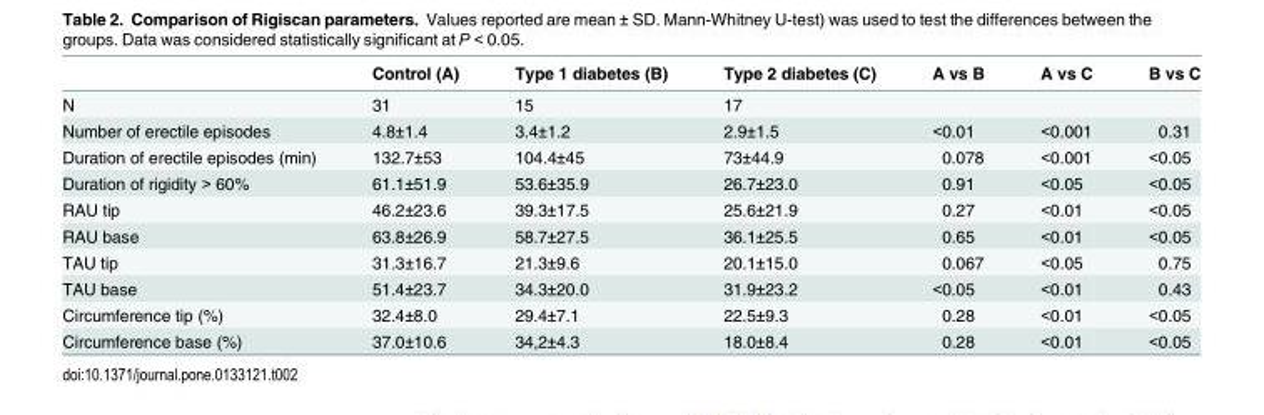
<table><thead><tr><td></td><td>Control (A)</td><td>Type 1 diabetes (B)</td><td>Type 2 diabetes (C)</td><td>A vs B</td><td>A vs C</td><td>B vs C</td></tr></thead><tbody><tr><td>N</td><td>31</td><td>15</td><td>17</td><td></td><td></td><td></td></tr><tr><td>Number of erectile episodes</td><td>4.8±1.4</td><td>3.4±1.2</td><td>2.9±1.5</td><td>&lt;0.01</td><td>&lt;0.001</td><td>0.31</td></tr><tr><td>Duration of erectile episodes (min)</td><td>132.7±53</td><td>104.4±45</td><td>73±44.9</td><td>0.078</td><td>&lt;0.001</td><td>&lt;0.05</td></tr><tr><td>Duration of rigidity &gt; 60%</td><td>61.1±51.9</td><td>53.6±35.9</td><td>26.7±23.0</td><td>0.91</td><td>&lt;0.05</td><td>&lt;0.05</td></tr><tr><td>RAU tip</td><td>46.2±23.6</td><td>39.3±17.5</td><td>25.6±21.9</td><td>0.27</td><td>&lt;0.01</td><td>&lt;0.05</td></tr><tr><td>RAU base</td><td>63.8±26.9</td><td>58.7±27.5</td><td>36.1±25.5</td><td>0.65</td><td>&lt;0.01</td><td>&lt;0.05</td></tr><tr><td>TAU tip</td><td>31.3±16.7</td><td>21.3±9.6</td><td>20.1±15.0</td><td>0.067</td><td>&lt;0.05</td><td>0.75</td></tr><tr><td>TAU base</td><td>51.4±23.7</td><td>34.3±20.0</td><td>31.9±23.2</td><td>&lt;0.05</td><td>&lt;0.01</td><td>0.43</td></tr><tr><td>Circumference tip (%)</td><td>32.4±8.0</td><td>29.4±7.1</td><td>22.5±9.3</td><td>0.28</td><td>&lt;0.01</td><td>&lt;0.05</td></tr><tr><td>Circumference base (%)</td><td>37.0±10.6</td><td>34,2±4.3</td><td>18.0±8.4</td><td>0.28</td><td>&lt;0.01</td><td>&lt;0.05</td></tr></tbody></table>